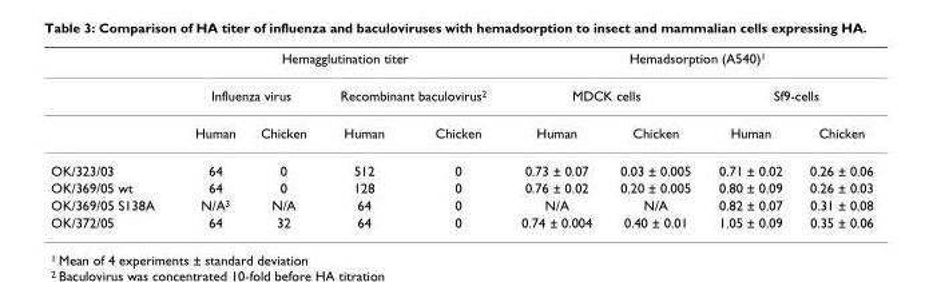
<table><thead><tr><td rowspan="3"></td><td colspan="4">Hemagglutination titer</td><td colspan="4">Hemadsorption (A540)<sup>1</sup></td></tr><tr><td colspan="2">Influenza virus</td><td colspan="2">Recombinant baculovirus<sup>2</sup></td><td colspan="2">MDCK cells</td><td colspan="2">Sf9-cells</td></tr><tr><td>Human</td><td>Chicken</td><td>Human</td><td>Chicken</td><td>Human</td><td>Chicken</td><td>Human</td><td>Chicken</td></tr></thead><tbody><tr><td>OK/323/03</td><td>64</td><td>0</td><td>512</td><td>0</td><td>0.73 ± 0.07</td><td>0.03 ± 0.005</td><td>0.71 ± 0.02</td><td>0.26 ± 0.06</td></tr><tr><td>OK/369/05 wt</td><td>64</td><td>0</td><td>128</td><td>0</td><td>0.76 ± 0.02</td><td>0.20 ± 0.005</td><td>0.80 ± 0.09</td><td>0.26 ± 0.03</td></tr><tr><td>OK/369/05 S138A</td><td>N/A<sup>3</sup></td><td>N/A</td><td>64</td><td>0</td><td>N/A</td><td>N/A</td><td>0.82 ± 0.07</td><td>0.31 ± 0.08</td></tr><tr><td>OK/372/05</td><td>64</td><td>32</td><td>64</td><td>0</td><td>0.74 ± 0.004</td><td>0.40 ± 0.01</td><td>1.05 ± 0.09</td><td>0.35 ± 0.06</td></tr></tbody></table>